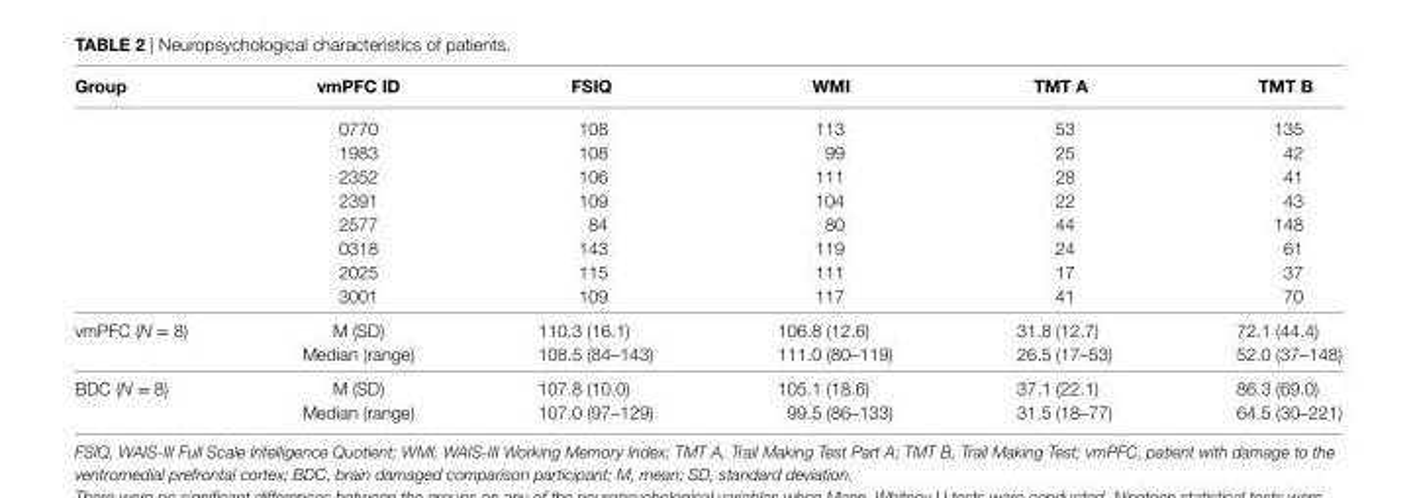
<table><thead><tr><td>group</td><td>vmPFc iD</td><td>FsiQ</td><td>WMi</td><td>TMT a</td><td>TMT B</td></tr></thead><tbody><tr><td></td><td>0770</td><td>108</td><td>113</td><td>53</td><td>135</td></tr><tr><td></td><td>1983</td><td>108</td><td>99</td><td>25</td><td>42</td></tr><tr><td></td><td>2352</td><td>106</td><td>111</td><td>28</td><td>41</td></tr><tr><td></td><td>2391</td><td>109</td><td>104</td><td>22</td><td>43</td></tr><tr><td></td><td>2577</td><td>84</td><td>80</td><td>44</td><td>148</td></tr><tr><td></td><td>0318</td><td>143</td><td>119</td><td>24</td><td>61</td></tr><tr><td></td><td>2025</td><td>115</td><td>111</td><td>17</td><td>37</td></tr><tr><td></td><td>3001</td><td>109</td><td>117</td><td>41</td><td>70</td></tr><tr><td rowspan="2">vmPFC (N = 8)</td><td>M (SD)</td><td>110.3 (16.1)</td><td>106.8 (12.6)</td><td>31.8 (12.7)</td><td>72.1 (44.4)</td></tr><tr><td>Median (range)</td><td>108.5 (84–143)</td><td>111.0 (80–119)</td><td>26.5 (17–53)</td><td>52.0 (37–148)</td></tr><tr><td rowspan="2">BDC (N = 8)</td><td>M (SD)</td><td>107.8 (10.0)</td><td>105.1 (18.6)</td><td>37.1 (22.1)</td><td>86.3 (69.0)</td></tr><tr><td>Median (range)</td><td>107.0 (97–129)</td><td>99.5 (86–133)</td><td>31.5 (18–77)</td><td>64.5 (30–221)</td></tr></tbody></table>